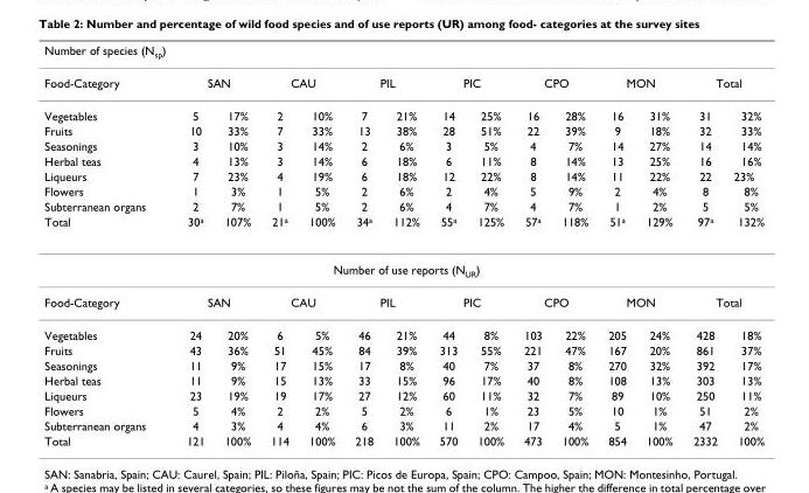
<table><thead><tr><td colspan="15">Number of species (N<sub>sp</sub>)</td></tr><tr><td rowspan="2">Food-Category Vegetables</td><td colspan="2">SAN</td><td colspan="2">CAU</td><td colspan="2">PIL</td><td colspan="2">PIC</td><td colspan="2">CPO</td><td colspan="2">MON</td><td colspan="2">Total</td></tr><tr><td>5</td><td>17%</td><td>2</td><td>10%</td><td>7</td><td>21%</td><td>14</td><td>25%</td><td>16</td><td>28%</td><td>16</td><td>31%</td><td>31</td><td>32%</td></tr></thead><tbody><tr><td>Fruits</td><td>10</td><td>33%</td><td>7</td><td>33%</td><td>13</td><td>38%</td><td>28</td><td>51%</td><td>22</td><td>39%</td><td>9</td><td>18%</td><td>32</td><td>33%</td></tr><tr><td>Seasonings</td><td>3</td><td>10%</td><td>3</td><td>14%</td><td>2</td><td>6%</td><td>3</td><td>5%</td><td>4</td><td>7%</td><td>14</td><td>27%</td><td>14</td><td>14%</td></tr><tr><td>Herbal teas</td><td>4</td><td>13%</td><td>3</td><td>14%</td><td>6</td><td>18%</td><td>6</td><td>11%</td><td>8</td><td>14%</td><td>13</td><td>25%</td><td>16</td><td>16%</td></tr><tr><td>Liqueurs</td><td>7</td><td>23%</td><td>4</td><td>19%</td><td>6</td><td>18%</td><td>12</td><td>22%</td><td>8</td><td>14%</td><td>11</td><td>22%</td><td>22</td><td>23%</td></tr><tr><td>Flowers</td><td>1</td><td>3%</td><td>1</td><td>5%</td><td>2</td><td>6%</td><td>2</td><td>4%</td><td>5</td><td>9%</td><td>2</td><td>4%</td><td>8</td><td>8%</td></tr><tr><td>Subterranean organs</td><td>2</td><td>7%</td><td>1</td><td>5%</td><td>2</td><td>6%</td><td>4</td><td>7%</td><td>4</td><td>7%</td><td>1</td><td>2%</td><td>5</td><td>5%</td></tr><tr><td>Total</td><td>30<sup>a</sup></td><td>107%</td><td>21<sup>a</sup></td><td>100%</td><td>34<sup>a</sup></td><td>112%</td><td>55<sup>a</sup></td><td>125%</td><td>57<sup>a</sup></td><td>118%</td><td>51<sup>a</sup></td><td>129%</td><td>97<sup>a</sup></td><td>132%</td></tr><tr><td colspan="15">Number of use reports (N<sub>UR</sub>)</td></tr><tr><td>Food-Category</td><td colspan="2">SAN</td><td colspan="2">CAU</td><td colspan="2">PIL</td><td colspan="2">PIC</td><td colspan="2">CPO</td><td colspan="2">MON</td><td colspan="2">Total</td></tr><tr><td>Vegetables</td><td>24</td><td>20%</td><td>6</td><td>5%</td><td>46</td><td>21%</td><td>44</td><td>8%</td><td>103</td><td>22%</td><td>205</td><td>24%</td><td>428</td><td>18%</td></tr><tr><td>Fruits</td><td>43</td><td>36%</td><td>51</td><td>45%</td><td>84</td><td>39%</td><td>313</td><td>55%</td><td>221</td><td>47%</td><td>167</td><td>20%</td><td>861</td><td>37%</td></tr><tr><td>Seasonings</td><td>11</td><td>9%</td><td>17</td><td>15%</td><td>17</td><td>8%</td><td>40</td><td>7%</td><td>37</td><td>8%</td><td>270</td><td>32%</td><td>392</td><td>17%</td></tr><tr><td>Herbal teas</td><td>11</td><td>9%</td><td>15</td><td>13%</td><td>33</td><td>15%</td><td>96</td><td>17%</td><td>40</td><td>8%</td><td>108</td><td>13%</td><td>303</td><td>13%</td></tr><tr><td>Liqueurs</td><td>23</td><td>19%</td><td>19</td><td>17%</td><td>27</td><td>12%</td><td>60</td><td>11%</td><td>32</td><td>7%</td><td>89</td><td>10%</td><td>250</td><td>11%</td></tr><tr><td>Flowers</td><td>5</td><td>4%</td><td>2</td><td>2%</td><td>5</td><td>2%</td><td>6</td><td>1%</td><td>23</td><td>5%</td><td>10</td><td>1%</td><td>51</td><td>2%</td></tr><tr><td>Subterranean organs</td><td>4</td><td>3%</td><td>4</td><td>4%</td><td>6</td><td>3%</td><td>11</td><td>2%</td><td>17</td><td>4%</td><td>5</td><td>1%</td><td>47</td><td>2%</td></tr><tr><td>Total</td><td>121</td><td>100%</td><td>114</td><td>100%</td><td>218</td><td>100%</td><td>570</td><td>100%</td><td>473</td><td>100%</td><td>854</td><td>100%</td><td>2332</td><td>100%</td></tr></tbody></table>